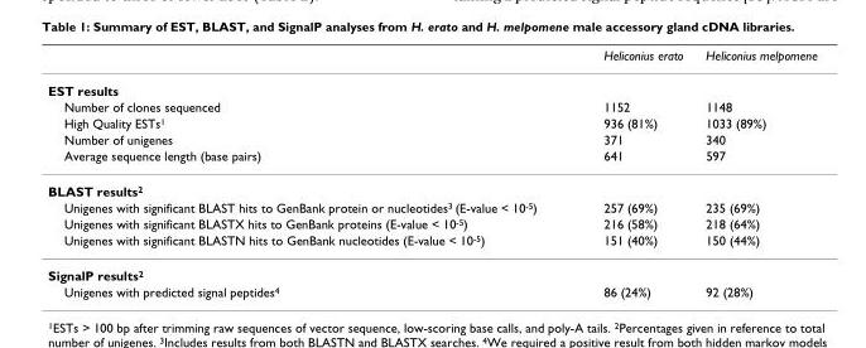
<table><thead><tr><td></td><td>Heliconius erato</td><td>Heliconius melpomene</td></tr></thead><tbody><tr><td colspan="3">EST results</td></tr><tr><td>Number of clones sequenced</td><td>1152</td><td>1148</td></tr><tr><td>High Quality ESTs<sup>1</sup></td><td>936 (81%)</td><td>1033 (89%)</td></tr><tr><td>Number of unigenes</td><td>371</td><td>340</td></tr><tr><td>Average sequence length (base pairs)</td><td>641</td><td>597</td></tr><tr><td colspan="3">BLAST results<sup>2</sup></td></tr><tr><td>Unigenes with significant BLAST hits to GenBank protein or nucleotides<sup>3</sup> (E-value &lt; 10<sup>-5</sup>)</td><td>257 (69%)</td><td>235 (69%)</td></tr><tr><td>Unigenes with significant BLASTX hits to GenBank proteins (E-value &lt; 10<sup>-5</sup>)</td><td>216 (58%)</td><td>218 (64%)</td></tr><tr><td>Unigenes with significant BLASTN hits to GenBank nucleotides (E-value &lt; 10<sup>-5</sup>)</td><td>151 (40%)</td><td>150 (44%)</td></tr><tr><td colspan="3">SignalP results<sup>2</sup></td></tr><tr><td>Unigenes with predicted signal peptides<sup>4</sup></td><td>86 (24%)</td><td>92 (28%)</td></tr></tbody></table>